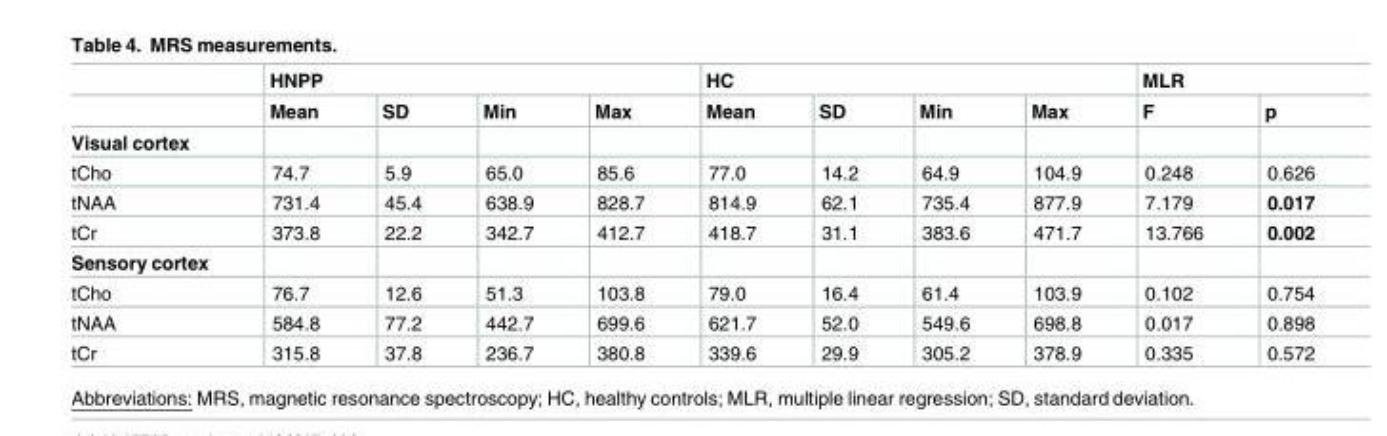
<table><thead><tr><td rowspan="2"></td><td colspan="4">HNPP</td><td colspan="4">HC</td><td colspan="2">MLR</td></tr><tr><td>Mean</td><td>SD</td><td>Min</td><td>Max</td><td>Mean</td><td>SD</td><td>Min</td><td>Max</td><td>F</td><td>p</td></tr></thead><tbody><tr><td colspan="11">Visual cortex</td></tr><tr><td>tCho</td><td>74.7</td><td>5.9</td><td>65.0</td><td>85.6</td><td>77.0</td><td>14.2</td><td>64.9</td><td>104.9</td><td>0.248</td><td>0.626</td></tr><tr><td>tNAA</td><td>731.4</td><td>45.4</td><td>638.9</td><td>828.7</td><td>814.9</td><td>62.1</td><td>735.4</td><td>877.9</td><td>7.179</td><td>0.017</td></tr><tr><td>tCr</td><td>373.8</td><td>22.2</td><td>342.7</td><td>412.7</td><td>418.7</td><td>31.1</td><td>383.6</td><td>471.7</td><td>13.766</td><td>0.002</td></tr><tr><td colspan="11">Sensory cortex</td></tr><tr><td>tCho</td><td>76.7</td><td>12.6</td><td>51.3</td><td>103.8</td><td>79.0</td><td>16.4</td><td>61.4</td><td>103.9</td><td>0.102</td><td>0.754</td></tr><tr><td>tNAA</td><td>584.8</td><td>77.2</td><td>442.7</td><td>699.6</td><td>621.7</td><td>52.0</td><td>549.6</td><td>698.8</td><td>0.017</td><td>0.898</td></tr><tr><td>tCr</td><td>315.8</td><td>37.8</td><td>236.7</td><td>380.8</td><td>339.6</td><td>29.9</td><td>305.2</td><td>378.9</td><td>0.335</td><td>0.572</td></tr></tbody></table>